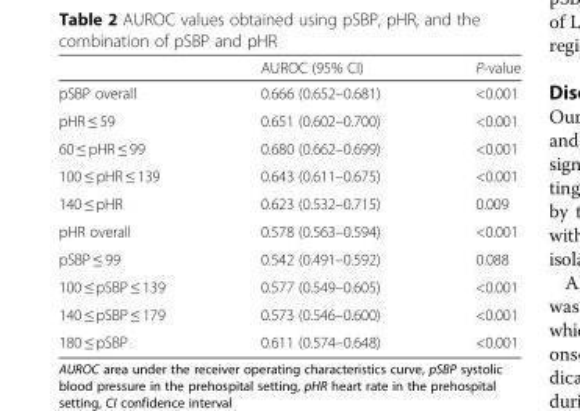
<table><thead><tr><td></td><td>AUROC (95% CI)</td><td>P-value</td></tr></thead><tbody><tr><td>pSBP overall</td><td>0.666 (0.652–0.681)</td><td>&lt;0.001</td></tr><tr><td>pHR ≤ 59</td><td>0.651 (0.602–0.700)</td><td>&lt;0.001</td></tr><tr><td>60 ≤ pHR ≤ 99</td><td>0.680 (0.662–0.699)</td><td>&lt;0.001</td></tr><tr><td>100 ≤ pHR ≤ 139</td><td>0.643 (0.611–0.675)</td><td>&lt;0.001</td></tr><tr><td>140 ≤ pHR</td><td>0.623 (0.532–0.715)</td><td>0.009</td></tr><tr><td>pHR overall</td><td>0.578 (0.563–0.594)</td><td>&lt;0.001</td></tr><tr><td>pSBP ≤ 99</td><td>0.542 (0.491–0.592)</td><td>0.088</td></tr><tr><td>100 ≤ pSBP ≤ 139</td><td>0.577 (0.549–0.605)</td><td>&lt;0.001</td></tr><tr><td>140 ≤ pSBP ≤ 179</td><td>0.573 (0.546–0.600)</td><td>&lt;0.001</td></tr><tr><td>180 ≤ pSBP</td><td>0.611 (0.574–0.648)</td><td>&lt;0.001</td></tr></tbody></table>